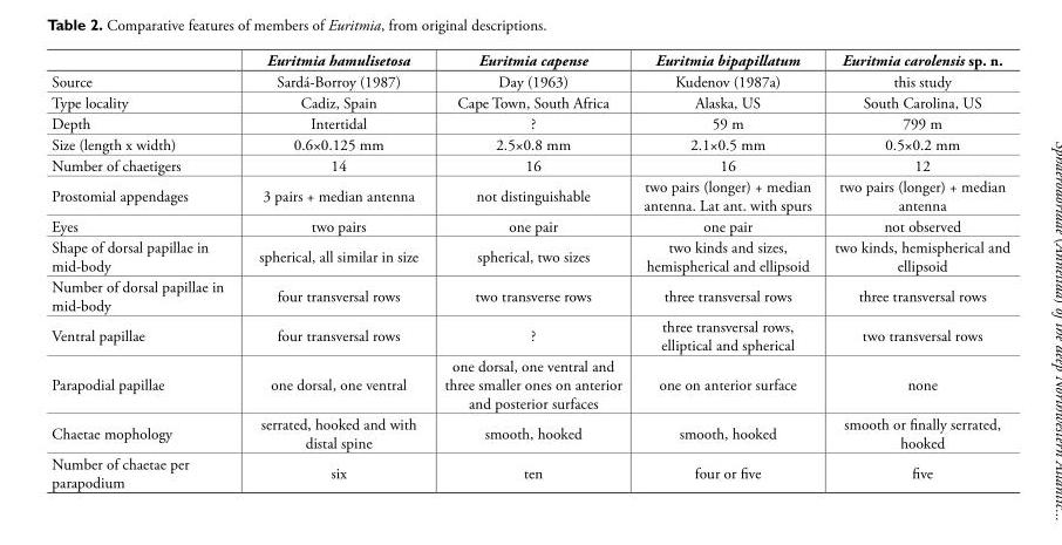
<table><thead><tr><td></td><td>Euritmia hamulisetosa</td><td>Euritmia capense</td><td>Euritmia bipapillatum</td><td>Euritmia carolensis sp. n.</td></tr></thead><tbody><tr><td>Source</td><td>Sardá-Borroy (1987)</td><td>Day (1963)</td><td>Kudenov (1987a)</td><td>this study</td></tr><tr><td>Type locality</td><td>Cadiz, Spain</td><td>Cape Town, South Africa</td><td>Alaska, US</td><td>South Carolina, US</td></tr><tr><td>Depth</td><td>Intertidal</td><td>?</td><td>59 m</td><td>799 m</td></tr><tr><td>Size (length x width)</td><td>0.6×0.125 mm</td><td>2.5×0.8 mm</td><td>2.1×0.5 mm</td><td>0.5×0.2 mm</td></tr><tr><td>Number of chaetigers</td><td>14</td><td>16</td><td>16</td><td>12</td></tr><tr><td>Prostomial appendages</td><td>3 pairs + median antenna</td><td>not distinguishable</td><td>two pairs (longer) + median antenna. Lat ant. with spurs</td><td>two pairs (longer) + median antenna</td></tr><tr><td>Eyes</td><td>two pairs</td><td>one pair</td><td>one pair</td><td>not observed</td></tr><tr><td>Shape of dorsal papillae in mid-body</td><td>spherical, all similar in size</td><td>spherical, two sizes</td><td>two kinds and sizes, hemispherical and ellipsoid</td><td>two kinds, hemispherical and ellipsoid</td></tr><tr><td>Number of dorsal papillae in mid-body</td><td>four transversal rows</td><td>two transverse rows</td><td>three transversal rows</td><td>three transversal rows</td></tr><tr><td>Ventral papillae</td><td>four transversal rows</td><td>?</td><td>three transversal rows, elliptical and spherical</td><td>two transversal rows</td></tr><tr><td>Parapodial papillae</td><td>one dorsal, one ventral</td><td>one dorsal, one ventral and three smaller ones on anterior and posterior surfaces</td><td>one on anterior surface</td><td>none</td></tr><tr><td>Chaetae mophology</td><td>serrated, hooked and with distal spine</td><td>smooth, hooked</td><td>smooth, hooked</td><td>smooth or finally serrated, hooked</td></tr><tr><td>Number of chaetae per parapodium</td><td>six</td><td>ten</td><td>four or five</td><td>five</td></tr></tbody></table>